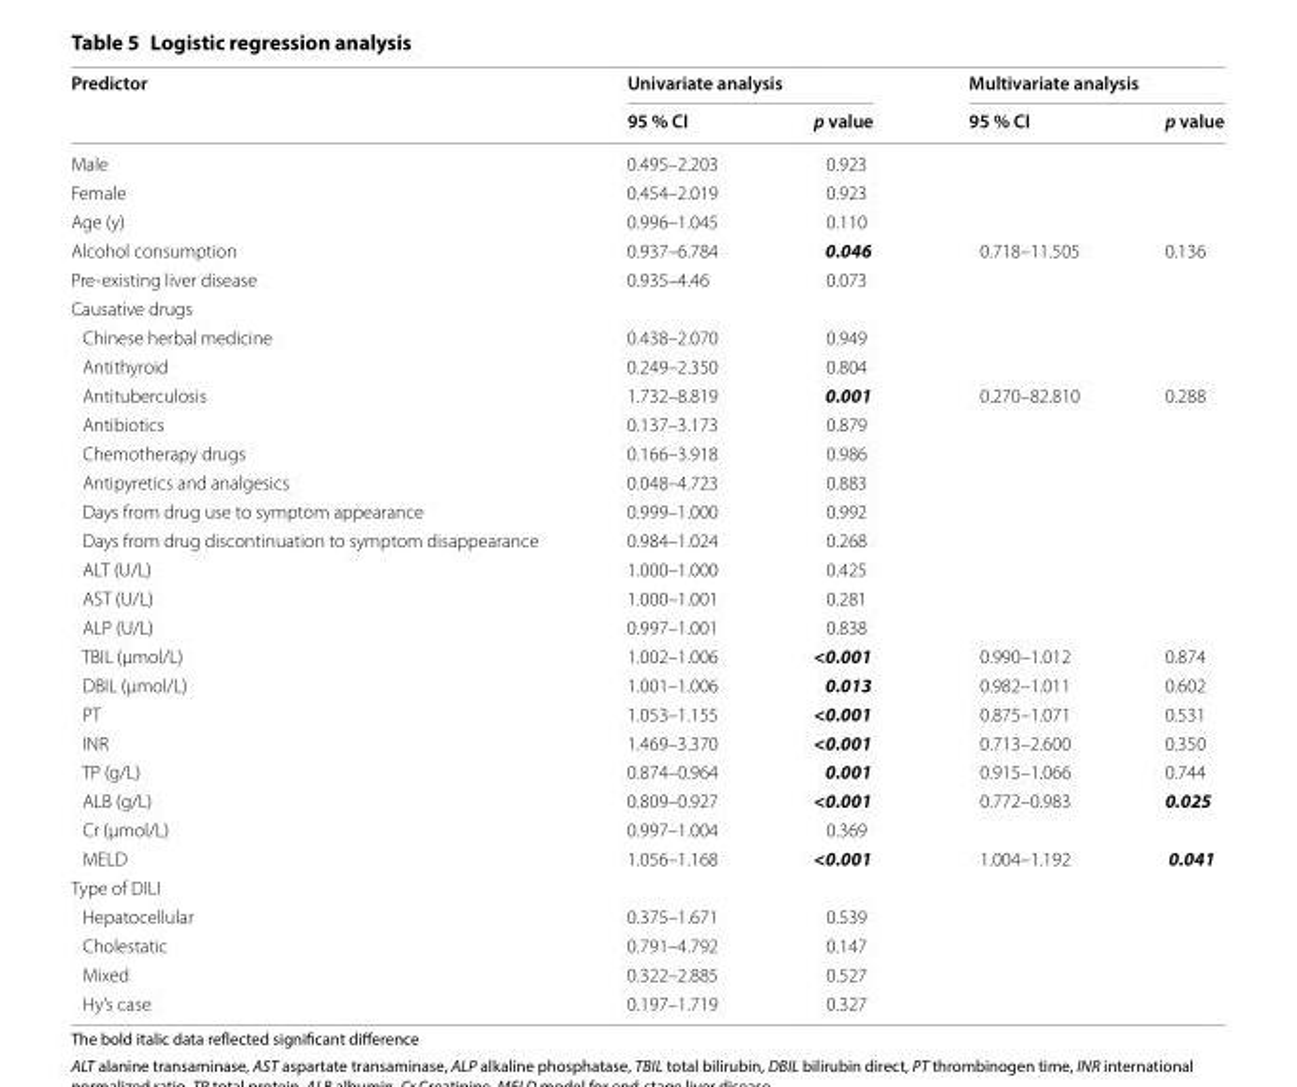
<table><thead><tr><td rowspan="2">Predictor</td><td colspan="2">Univariate analysis</td><td colspan="2">Multivariate analysis</td></tr><tr><td>95 % CI</td><td>p value</td><td>95 % CI</td><td>p value</td></tr></thead><tbody><tr><td>Male</td><td>0.495–2.203</td><td>0.923</td><td></td><td></td></tr><tr><td>Female</td><td>0.454–2.019</td><td>0.923</td><td></td><td></td></tr><tr><td>Age (y)</td><td>0.996–1.045</td><td>0.110</td><td></td><td></td></tr><tr><td>Alcohol consumption</td><td>0.937–6.784</td><td>0.046</td><td>0.718–11.505</td><td>0.136</td></tr><tr><td>Pre-existing liver disease</td><td>0.935–4.46</td><td>0.073</td><td></td><td></td></tr><tr><td colspan="5">Causative drugs</td></tr><tr><td>Chinese herbal medicine</td><td>0.438–2.070</td><td>0.949</td><td></td><td></td></tr><tr><td>Antithyroid</td><td>0.249–2.350</td><td>0.804</td><td></td><td></td></tr><tr><td>Antituberculosis</td><td>1.732–8.819</td><td>0.001</td><td>0.270–82.810</td><td>0.288</td></tr><tr><td>Antibiotics</td><td>0.137–3.173</td><td>0.879</td><td></td><td></td></tr><tr><td>Chemotherapy drugs</td><td>0.166–3.918</td><td>0.986</td><td></td><td></td></tr><tr><td>Antipyretics and analgesics</td><td>0.048–4.723</td><td>0.883</td><td></td><td></td></tr><tr><td>Days from drug use to symptom appearance</td><td>0.999–1.000</td><td>0.992</td><td></td><td></td></tr><tr><td>Days from drug discontinuation to symptom disappearance</td><td>0.984–1.024</td><td>0.268</td><td></td><td></td></tr><tr><td>ALT (U/L)</td><td>1.000–1.000</td><td>0.425</td><td></td><td></td></tr><tr><td>AST (U/L)</td><td>1.000–1.001</td><td>0.281</td><td></td><td></td></tr><tr><td>ALP (U/L)</td><td>0.997–1.001</td><td>0.838</td><td></td><td></td></tr><tr><td>TBIL (μmol/L)</td><td>1.002–1.006</td><td>&lt;0.001</td><td>0.990–1.012</td><td>0.874</td></tr><tr><td>DBIL (μmol/L)</td><td>1.001–1.006</td><td>0.013</td><td>0.982–1.011</td><td>0.602</td></tr><tr><td>PT</td><td>1.053–1.155</td><td>&lt;0.001</td><td>0.875–1.071</td><td>0.531</td></tr><tr><td>INR</td><td>1.469–3.370</td><td>&lt;0.001</td><td>0.713–2.600</td><td>0.350</td></tr><tr><td>TP (g/L)</td><td>0.874–0.964</td><td>0.001</td><td>0.915–1.066</td><td>0.744</td></tr><tr><td>ALB (g/L)</td><td>0.809–0.927</td><td>&lt;0.001</td><td>0.772–0.983</td><td>0.025</td></tr><tr><td>Cr (μmol/L)</td><td>0.997–1.004</td><td>0.369</td><td></td><td></td></tr><tr><td>MELD</td><td>1.056–1.168</td><td>&lt;0.001</td><td>1.004–1.192</td><td>0.041</td></tr><tr><td colspan="5">Type of DILI</td></tr><tr><td>Hepatocellular</td><td>0.375–1.671</td><td>0.539</td><td></td><td></td></tr><tr><td>Cholestatic</td><td>0.791–4.792</td><td>0.147</td><td></td><td></td></tr><tr><td>Mixed</td><td>0.322–2.885</td><td>0.527</td><td></td><td></td></tr><tr><td>Hy’s case</td><td>0.197–1.719</td><td>0.327</td><td></td><td></td></tr></tbody></table>